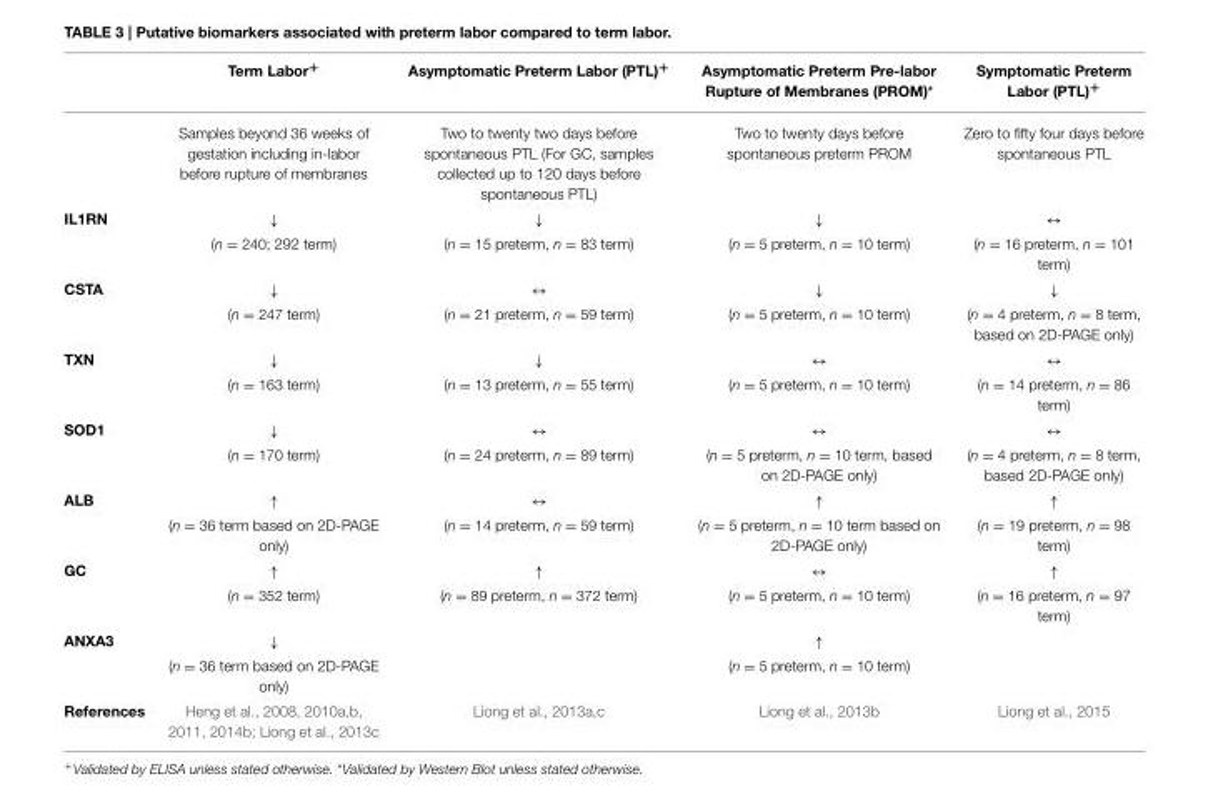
<table><thead><tr><td></td><td>Term Labor<sup>+</sup></td><td>Asymptomatic Preterm Labor (PTL)<sup>+</sup></td><td>Asymptomatic Preterm Pre-labor Rupture of Membranes (PROM)*</td><td>Symptomatic Preterm Labor (PTL)<sup>+</sup></td></tr></thead><tbody><tr><td></td><td>Samples beyond 36 weeks of gestation including in-labor before rupture of membranes</td><td>Two to twenty two days before spontaneous PTL (For GC, samples collected up to 120 days before spontaneous PTL)</td><td>Two to twenty days before spontaneous preterm PROM</td><td>Zero to fifty four days before spontaneous PTL</td></tr><tr><td rowspan="2">IL1RN</td><td>↓</td><td>↓</td><td>↓</td><td>↔</td></tr><tr><td>(n = 240; 292 term)</td><td>(n = 15 preterm, n = 83 term)</td><td>(n = 5 preterm, n = 10 term)</td><td>(n = 16 preterm, n = 101 term)</td></tr><tr><td rowspan="2">CSTA</td><td>↓</td><td>↔</td><td>↓</td><td>↓</td></tr><tr><td>(n = 247 term)</td><td>(n = 21 preterm, n = 59 term)</td><td>(n = 5 preterm, n = 10 term)</td><td>(n = 4 preterm, n = 8 term, based on 2D-PAGE only)</td></tr><tr><td rowspan="2">TXN</td><td>↓</td><td>↓</td><td>↔</td><td>↔</td></tr><tr><td>(n = 163 term)</td><td>(n = 13 preterm, n = 55 term)</td><td>(n = 5 preterm, n = 10 term)</td><td>(n = 14 preterm, n = 86 term)</td></tr><tr><td rowspan="2">SOD1</td><td>↓</td><td>↔</td><td>↔</td><td>↔</td></tr><tr><td>(n = 170 term)</td><td>(n = 24 preterm, n = 89 term)</td><td>(n = 5 preterm, n = 10 term, based on 2D-PAGE only)</td><td>(n = 4 preterm, n = 8 term, based 2D-PAGE only)</td></tr><tr><td rowspan="2">ALB</td><td>↑</td><td>↔</td><td>↑</td><td>↑</td></tr><tr><td>(n = 36 term based on 2D-PAGE only)</td><td>(n = 14 preterm, n = 59 term)</td><td>(n = 5 preterm, n = 10 term based on 2D-PAGE only)</td><td>(n = 19 preterm, n = 98 term)</td></tr><tr><td rowspan="2">GC</td><td>↑</td><td>↑</td><td>↔</td><td>↑</td></tr><tr><td>(n = 352 term)</td><td>(n = 89 preterm, n = 372 term)</td><td>(n = 5 preterm, n = 10 term)</td><td>(n = 16 preterm, n = 97 term)</td></tr><tr><td rowspan="2">ANXA3</td><td>↓</td><td></td><td>↑</td><td></td></tr><tr><td>(n = 36 term based on 2D-PAGE only)</td><td></td><td>(n = 5 preterm, n = 10 term)</td><td></td></tr><tr><td>References</td><td>Heng et al., 2008, 2010a,b, 2011, 2014b; Liong et al., 2013c</td><td>Liong et al., 2013a,c</td><td>Liong et al., 2013b</td><td>Liong et al., 2015</td></tr></tbody></table>